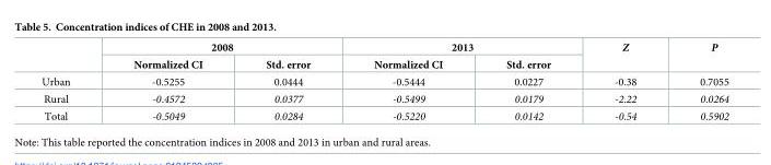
<table><thead><tr><td rowspan="2"></td><td colspan="2">2008</td><td colspan="2">2013</td><td rowspan="2">Z</td><td rowspan="2">P</td></tr><tr><td>Normalized CI</td><td>Std. error</td><td>Normalized CI</td><td>Std. error</td></tr></thead><tbody><tr><td>Urban</td><td>-0.5255</td><td>0.0444</td><td>-0.5444</td><td>0.0227</td><td>-0.38</td><td>0.7055</td></tr><tr><td>Rural</td><td>-0.4572</td><td>0.0377</td><td>-0.5499</td><td>0.0179</td><td>-2.22</td><td>0.0264</td></tr><tr><td>Total</td><td>-0.5049</td><td>0.0284</td><td>-0.5220</td><td>0.0142</td><td>-0.54</td><td>0.5902</td></tr></tbody></table>